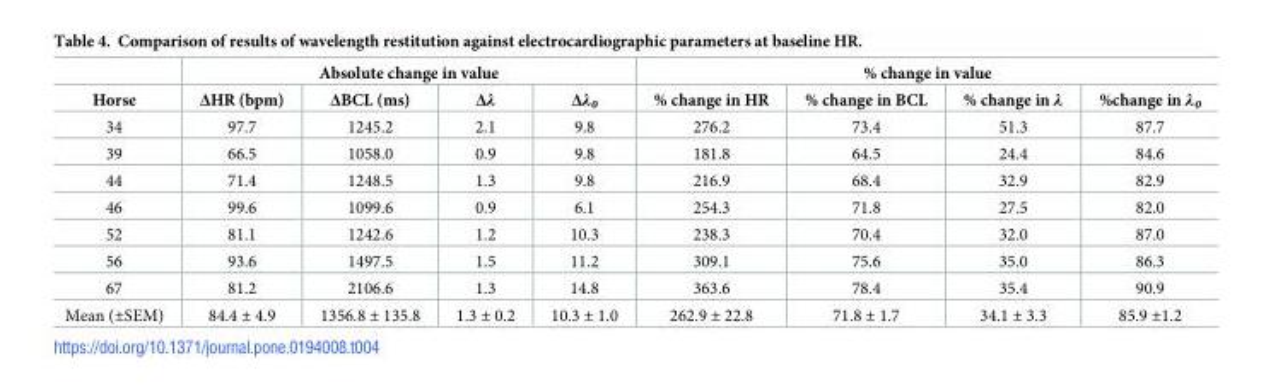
<table><thead><tr><td rowspan="2">Horse</td><td colspan="4">Absolute change in value</td><td colspan="4">% change in value</td></tr><tr><td>ΔHR (bpm)</td><td>ΔBCL (ms)</td><td>Δλ</td><td>Δλ<sub>0</sub></td><td>% change in HR</td><td>% change in BCL</td><td>% change in λ</td><td>%change in λ<sub>0</sub></td></tr></thead><tbody><tr><td>34</td><td>97.7</td><td>1245.2</td><td>2.1</td><td>9.8</td><td>276.2</td><td>73.4</td><td>51.3</td><td>87.7</td></tr><tr><td>39</td><td>66.5</td><td>1058.0</td><td>0.9</td><td>9.8</td><td>181.8</td><td>64.5</td><td>24.4</td><td>84.6</td></tr><tr><td>44</td><td>71.4</td><td>1248.5</td><td>1.3</td><td>9.8</td><td>216.9</td><td>68.4</td><td>32.9</td><td>82.9</td></tr><tr><td>46</td><td>99.6</td><td>1099.6</td><td>0.9</td><td>6.1</td><td>254.3</td><td>71.8</td><td>27.5</td><td>82.0</td></tr><tr><td>52</td><td>81.1</td><td>1242.6</td><td>1.2</td><td>10.3</td><td>238.3</td><td>70.4</td><td>32.0</td><td>87.0</td></tr><tr><td>56</td><td>93.6</td><td>1497.5</td><td>1.5</td><td>11.2</td><td>309.1</td><td>75.6</td><td>35.0</td><td>86.3</td></tr><tr><td>67</td><td>81.2</td><td>2106.6</td><td>1.3</td><td>14.8</td><td>363.6</td><td>78.4</td><td>35.4</td><td>90.9</td></tr><tr><td>Mean (±SEM)</td><td>84.4 ± 4.9</td><td>1356.8 ± 135.8</td><td>1.3 ± 0.2</td><td>10.3 ± 1.0</td><td>262.9 ± 22.8</td><td>71.8 ± 1.7</td><td>34.1 ± 3.3</td><td>85.9 ±1.2</td></tr></tbody></table>